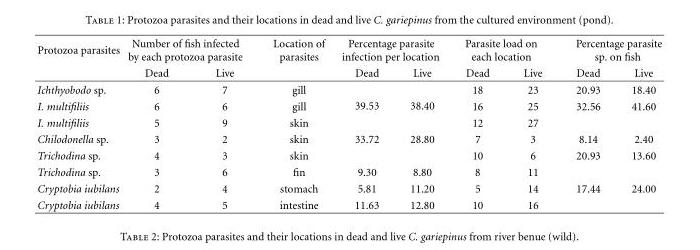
<table><thead><tr><td rowspan="2">Protozoa parasites</td><td colspan="2">Number of fish infected by each protozoa parasite</td><td rowspan="2">Location of parasites</td><td colspan="2">Percentage parasite infection per location</td><td colspan="2">Parasite load on each location</td><td colspan="2">Percentage parasite sp. on fish</td></tr><tr><td>Dead</td><td>Live</td><td>Dead</td><td>Live</td><td>Dead</td><td>Live</td><td>Dead</td><td>Live</td></tr></thead><tbody><tr><td>Ichthyobodo sp.</td><td>6</td><td>7</td><td>gill</td><td rowspan="2">39.53</td><td rowspan="2">38.40</td><td>18</td><td>23</td><td>20.93</td><td>18.40</td></tr><tr><td>I. multifiliis</td><td>6</td><td>6</td><td>gill</td><td>16</td><td>25</td><td>32.56</td><td>41.60</td></tr><tr><td>I. multifiliis</td><td>5</td><td>9</td><td>skin</td><td></td><td></td><td>12</td><td>27</td><td></td><td></td></tr><tr><td>Chilodonella sp.</td><td>3</td><td>2</td><td>skin</td><td>33.72</td><td>28.80</td><td>7</td><td>3</td><td>8.14</td><td>2.40</td></tr><tr><td>Trichodina sp.</td><td>4</td><td>3</td><td>skin</td><td></td><td></td><td>10</td><td>6</td><td>20.93</td><td>13.60</td></tr><tr><td>Trichodina sp.</td><td>3</td><td>6</td><td>fin</td><td>9.30</td><td>8.80</td><td>8</td><td>11</td><td></td><td></td></tr><tr><td>Cryptobia iubilans</td><td>2</td><td>4</td><td>stomach</td><td>5.81</td><td>11.20</td><td>5</td><td>14</td><td>17.44</td><td>24.00</td></tr><tr><td>Cryptobia iubilans</td><td>4</td><td>5</td><td>intestine</td><td>11.63</td><td>12.80</td><td>10</td><td>16</td><td></td><td></td></tr></tbody></table>